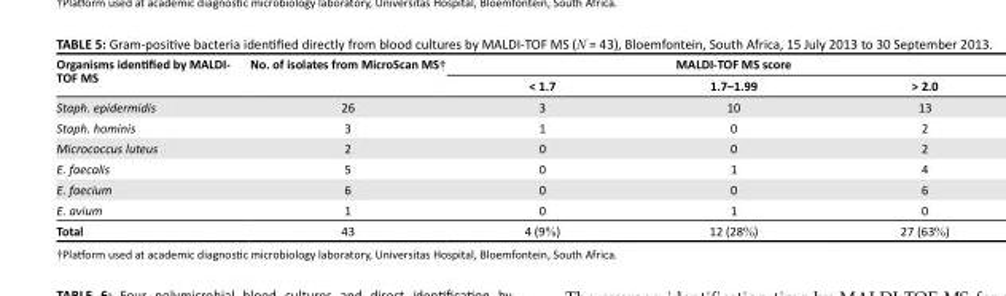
<table><thead><tr><td rowspan="2">Organisms identified by MALDI- TOF MS</td><td rowspan="2">No. of isolates from MicroScan MS†</td><td colspan="3">MALDI-TOF MS score</td></tr><tr><td>&lt; 1.7</td><td>1.7–1.99</td><td>&gt; 2.0</td></tr></thead><tbody><tr><td>Staph. epidermidis</td><td>26</td><td>3</td><td>10</td><td>13</td></tr><tr><td>Staph. hominis</td><td>3</td><td>1</td><td>0</td><td>2</td></tr><tr><td>Micrococcus luteus</td><td>2</td><td>0</td><td>0</td><td>2</td></tr><tr><td>E. faecalis</td><td>5</td><td>0</td><td>1</td><td>4</td></tr><tr><td>E. faecium</td><td>6</td><td>0</td><td>0</td><td>6</td></tr><tr><td>E. avium</td><td>1</td><td>0</td><td>1</td><td>0</td></tr><tr><td>Total</td><td>43</td><td>4 (9%)</td><td>12 (28%)</td><td>27 (63%)</td></tr></tbody></table>